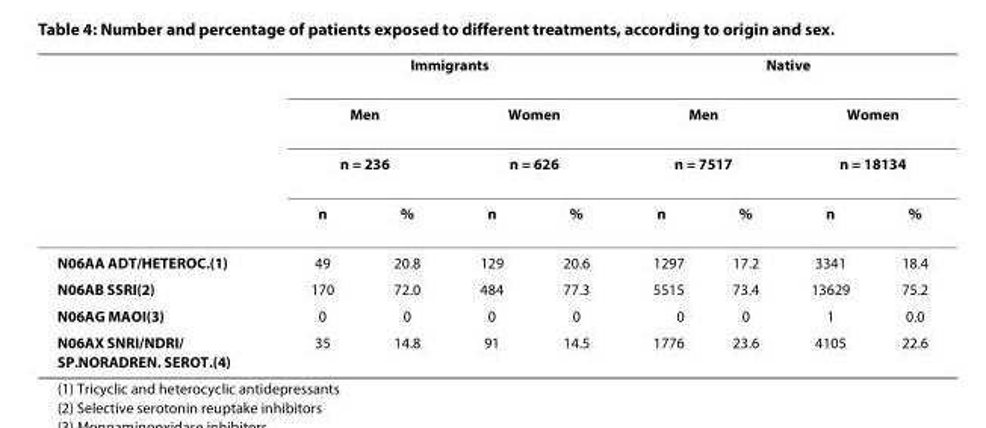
<table><thead><tr><td rowspan="4"></td><td colspan="4">Immigrants</td><td colspan="4">Native</td></tr><tr><td rowspan="2" colspan="2">Men n = 236</td><td rowspan="2" colspan="2">Women n = 626</td><td rowspan="2" colspan="2">Men n = 7517</td><td rowspan="2" colspan="2">Women n = 18134</td></tr><tr></tr><tr><td>n</td><td>%</td><td>n</td><td>%</td><td>n</td><td>%</td><td>n</td><td>%</td></tr></thead><tbody><tr><td>N06AA ADT/HETEROC.(1)</td><td>49</td><td>20.8</td><td>129</td><td>20.6</td><td>1297</td><td>17.2</td><td>3341</td><td>18.4</td></tr><tr><td>N06AB SSRI(2)</td><td>170</td><td>72.0</td><td>484</td><td>77.3</td><td>5515</td><td>73.4</td><td>13629</td><td>75.2</td></tr><tr><td>N06AG MAOI(3)</td><td>0</td><td>0</td><td>0</td><td>0</td><td>0</td><td>0</td><td>1</td><td>0.0</td></tr><tr><td>N06AX SNRI/NDRI/ SP.NORADREN. SEROT.(4)</td><td>35</td><td>14.8</td><td>91</td><td>14.5</td><td>1776</td><td>23.6</td><td>4105</td><td>22.6</td></tr></tbody></table>